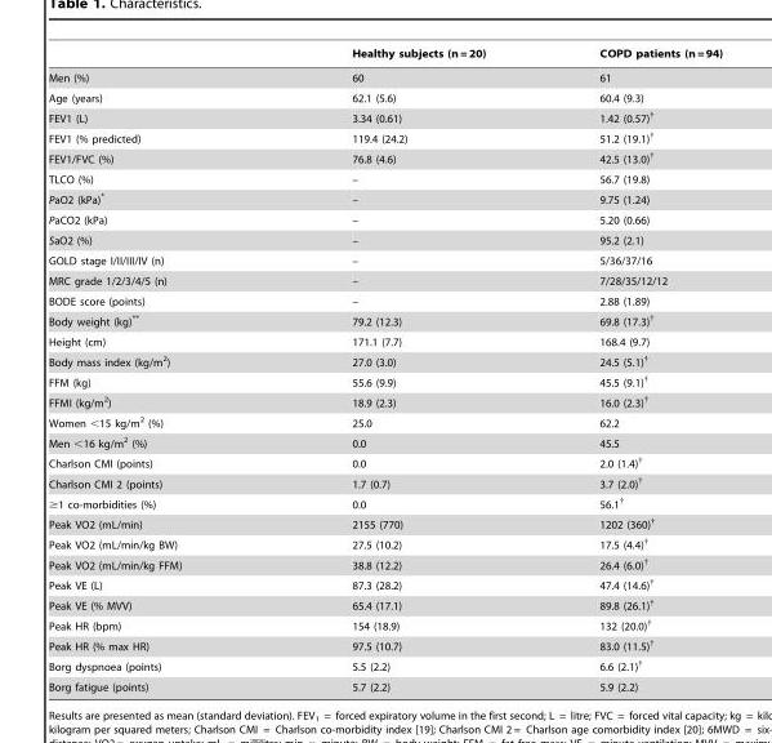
<table><thead><tr><td></td><td>Healthy subjects (n = 20)</td><td>COPD patients (n = 94)</td></tr></thead><tbody><tr><td>Men (%)</td><td>60</td><td>61</td></tr><tr><td>Age (years)</td><td>62.1 (5.6)</td><td>60.4 (9.3)</td></tr><tr><td>FEV1 (L)</td><td>3.34 (0.61)</td><td>1.42 (0.57)<sup>†</sup></td></tr><tr><td>FEV1 (% predicted)</td><td>119.4 (24.2)</td><td>51.2 (19.1)<sup>†</sup></td></tr><tr><td>FEV1/FVC (%)</td><td>76.8 (4.6)</td><td>42.5 (13.0)<sup>†</sup></td></tr><tr><td>TLCO (%)</td><td>–</td><td>56.7 (19.8)</td></tr><tr><td>PaO2 (kPa)*</td><td>–</td><td>9.75 (1.24)</td></tr><tr><td>PaCO2 (kPa)</td><td>–</td><td>5.20 (0.66)</td></tr><tr><td>SaO2 (%)</td><td>–</td><td>95.2 (2.1)</td></tr><tr><td>GOLD stage I/II/III/IV (n)</td><td>–</td><td>5/36/37/16</td></tr><tr><td>MRC grade 1/2/3/4/5 (n)</td><td>–</td><td>7/28/35/12/12</td></tr><tr><td>BODE score (points)</td><td>–</td><td>2.88 (1.89)</td></tr><tr><td>Body weight (kg)**</td><td>79.2 (12.3)</td><td>69.8 (17.3)<sup>†</sup></td></tr><tr><td>Height (cm)</td><td>171.1 (7.7)</td><td>168.4 (9.7)</td></tr><tr><td>Body mass index (kg/m<sup>2</sup>)</td><td>27.0 (3.0)</td><td>24.5 (5.1)<sup>†</sup></td></tr><tr><td>FFM (kg)</td><td>55.6 (9.9)</td><td>45.5 (9.1)<sup>†</sup></td></tr><tr><td>FFMI (kg/m<sup>2</sup>)</td><td>18.9 (2.3)</td><td>16.0 (2.3)<sup>†</sup></td></tr><tr><td>Women &lt;15 kg/m<sup>2</sup> (%)</td><td>25.0</td><td>62.2</td></tr><tr><td>Men &lt;16 kg/m<sup>2</sup> (%)</td><td>0.0</td><td>45.5</td></tr><tr><td>Charlson CMI (points)</td><td>0.0</td><td>2.0 (1.4)<sup>†</sup></td></tr><tr><td>Charlson CMI 2 (points)</td><td>1.7 (0.7)</td><td>3.7 (2.0)<sup>†</sup></td></tr><tr><td>≥1 co-morbidities (%)</td><td>0.0</td><td>56.1<sup>†</sup></td></tr><tr><td>Peak VO2 (mL/min)</td><td>2155 (770)</td><td>1202 (360)<sup>†</sup></td></tr><tr><td>Peak VO2 (mL/min/kg BW)</td><td>27.5 (10.2)</td><td>17.5 (4.4)<sup>†</sup></td></tr><tr><td>Peak VO2 (mL/min/kg FFM)</td><td>38.8 (12.2)</td><td>26.4 (6.0)<sup>†</sup></td></tr><tr><td>Peak VE (L)</td><td>87.3 (28.2)</td><td>47.4 (14.6)<sup>†</sup></td></tr><tr><td>Peak VE (% MVV)</td><td>65.4 (17.1)</td><td>89.8 (26.1)<sup>†</sup></td></tr><tr><td>Peak HR (bpm)</td><td>154 (18.9)</td><td>132 (20.0)<sup>†</sup></td></tr><tr><td>Peak HR (% max HR)</td><td>97.5 (10.7)</td><td>83.0 (11.5)<sup>†</sup></td></tr><tr><td>Borg dyspnoea (points)</td><td>5.5 (2.2)</td><td>6.6 (2.1)<sup>†</sup></td></tr><tr><td>Borg fatigue (points)</td><td>5.7 (2.2)</td><td>5.9 (2.2)</td></tr></tbody></table>